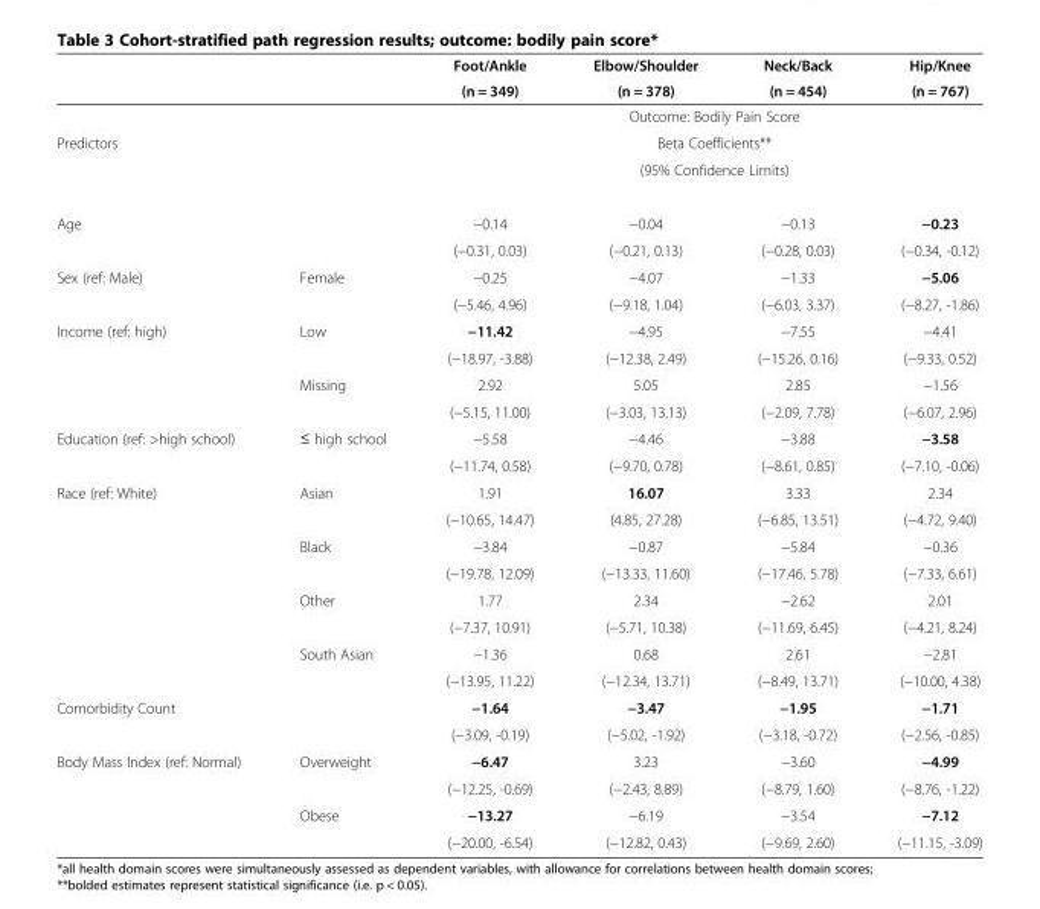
<table><thead><tr><td rowspan="2"></td><td rowspan="2"></td><td rowspan="2">Foot/Ankle (n = 349)</td><td rowspan="2">Elbow/Shoulder (n = 378)</td><td rowspan="2">Neck/Back (n = 454)</td><td rowspan="2">Hip/Knee (n = 767)</td></tr><tr></tr></thead><tbody><tr><td></td><td></td><td></td><td colspan="2">Outcome: Bodily Pain Score</td><td></td></tr><tr><td rowspan="2">Predictors</td><td rowspan="2"></td><td></td><td colspan="2">Beta Coefficients**</td><td></td></tr><tr><td></td><td colspan="2">(95% Confidence Limits)</td><td></td></tr><tr><td rowspan="2">Age</td><td></td><td>−0.14</td><td>−0.04</td><td>−0.13</td><td>−0.23</td></tr><tr><td></td><td>(−0.31, 0.03)</td><td>(−0.21, 0.13)</td><td>(−0.28, 0.03)</td><td>(−0.34, -0.12)</td></tr><tr><td rowspan="2">Sex (ref: Male)</td><td>Female</td><td>−0.25</td><td>−4.07</td><td>−1.33</td><td>−5.06</td></tr><tr><td></td><td>(−5.46, 4.96)</td><td>(−9.18, 1.04)</td><td>(−6.03, 3.37)</td><td>(−8.27, -1.86)</td></tr><tr><td rowspan="4">Income (ref: high)</td><td>Low</td><td>−11.42</td><td>−4.95</td><td>−7.55</td><td>−4.41</td></tr><tr><td></td><td>(−18.97, -3.88)</td><td>(−12.38, 2.49)</td><td>(−15.26, 0.16)</td><td>(−9.33, 0.52)</td></tr><tr><td>Missing</td><td>2.92</td><td>5.05</td><td>2.85</td><td>−1.56</td></tr><tr><td></td><td>(−5.15, 11.00)</td><td>(−3.03, 13.13)</td><td>(−2.09, 7.78)</td><td>(−6.07, 2.96)</td></tr><tr><td rowspan="2">Education (ref: &gt;high school)</td><td>≤ high school</td><td>−5.58</td><td>−4.46</td><td>−3.88</td><td>−3.58</td></tr><tr><td></td><td>(−11.74, 0.58)</td><td>(−9.70, 0.78)</td><td>(−8.61, 0.85)</td><td>(−7.10, -0.06)</td></tr><tr><td rowspan="8">Race (ref: White)</td><td>Asian</td><td>1.91</td><td>16.07</td><td>3.33</td><td>2.34</td></tr><tr><td></td><td>(−10.65, 14.47)</td><td>(4.85, 27.28)</td><td>(−6.85, 13.51)</td><td>(−4.72, 9.40)</td></tr><tr><td>Black</td><td>−3.84</td><td>−0.87</td><td>−5.84</td><td>−0.36</td></tr><tr><td></td><td>(−19.78, 12.09)</td><td>(−13.33, 11.60)</td><td>(−17.46, 5.78)</td><td>(−7.33, 6.61)</td></tr><tr><td>Other</td><td>1.77</td><td>2.34</td><td>−2.62</td><td>2.01</td></tr><tr><td></td><td>(−7.37, 10.91)</td><td>(−5.71, 10.38)</td><td>(−11.69, 6.45)</td><td>(−4.21, 8.24)</td></tr><tr><td>South Asian</td><td>−1.36</td><td>0.68</td><td>2.61</td><td>−2.81</td></tr><tr><td></td><td>(−13.95, 11.22)</td><td>(−12.34, 13.71)</td><td>(−8.49, 13.71)</td><td>(−10.00, 4.38)</td></tr><tr><td rowspan="2">Comorbidity Count</td><td></td><td>−1.64</td><td>−3.47</td><td>−1.95</td><td>−1.71</td></tr><tr><td></td><td>(−3.09, -0.19)</td><td>(−5.02, -1.92)</td><td>(−3.18, -0.72)</td><td>(−2.56, -0.85)</td></tr><tr><td rowspan="4">Body Mass Index (ref: Normal)</td><td>Overweight</td><td>−6.47</td><td>3.23</td><td>−3.60</td><td>−4.99</td></tr><tr><td></td><td>(−12.25, -0.69)</td><td>(−2.43, 8.89)</td><td>(−8.79, 1.60)</td><td>(−8.76, -1.22)</td></tr><tr><td>Obese</td><td>−13.27</td><td>−6.19</td><td>−3.54</td><td>−7.12</td></tr><tr><td></td><td>(−20.00, -6.54)</td><td>(−12.82, 0.43)</td><td>(−9.69, 2.60)</td><td>(−11.15, -3.09)</td></tr></tbody></table>